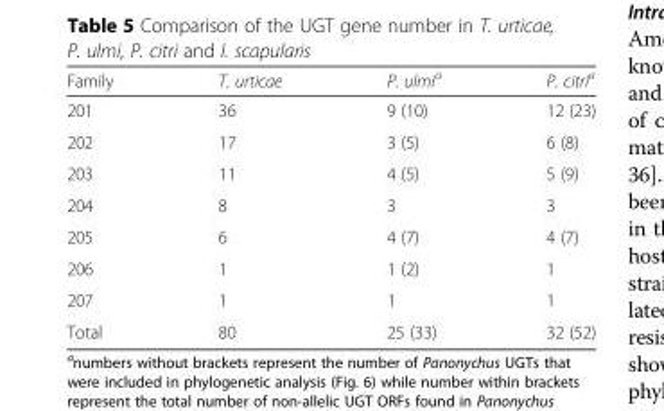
<table><thead><tr><td>Family</td><td>T. urticae</td><td>P. ulmi<sup>a</sup></td><td>P. citri<sup>a</sup></td></tr></thead><tbody><tr><td>201</td><td>36</td><td>9 (10)</td><td>12 (23)</td></tr><tr><td>202</td><td>17</td><td>3 (5)</td><td>6 (8)</td></tr><tr><td>203</td><td>11</td><td>4 (5)</td><td>5 (9)</td></tr><tr><td>204</td><td>8</td><td>3</td><td>3</td></tr><tr><td>205</td><td>6</td><td>4 (7)</td><td>4 (7)</td></tr><tr><td>206</td><td>1</td><td>1 (2)</td><td>1</td></tr><tr><td>207</td><td>1</td><td>1</td><td>1</td></tr><tr><td>Total</td><td>80</td><td>25 (33)</td><td>32 (52)</td></tr></tbody></table>